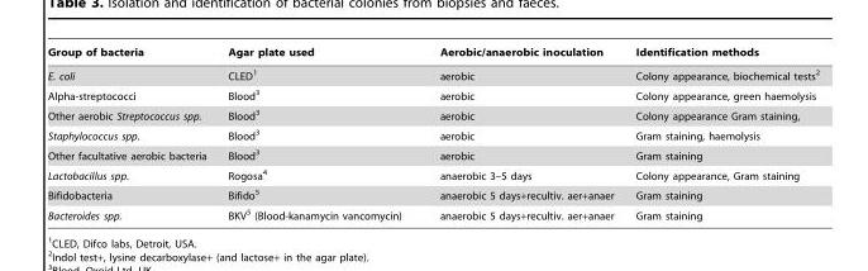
<table><thead><tr><td>Group of bacteria</td><td>Agar plate used</td><td>Aerobic/anaerobic inoculation</td><td>Identification methods</td></tr></thead><tbody><tr><td>E. coli</td><td>CLED<sup>1</sup></td><td>aerobic</td><td>Colony appearance, biochemical tests<sup>2</sup></td></tr><tr><td>Alpha-streptococci</td><td>Blood<sup>3</sup></td><td>aerobic</td><td>Colony appearance, green haemolysis</td></tr><tr><td>Other aerobic Streptococcus spp.</td><td>Blood<sup>3</sup></td><td>aerobic</td><td>Colony appearance Gram staining,</td></tr><tr><td>Staphylococcus spp.</td><td>Blood<sup>3</sup></td><td>aerobic</td><td>Gram staining, haemolysis</td></tr><tr><td>Other facultative aerobic bacteria</td><td>Blood<sup>3</sup></td><td>aerobic</td><td>Gram staining</td></tr><tr><td>Lactobacillus spp.</td><td>Rogosa<sup>4</sup></td><td>anaerobic 3–5 days</td><td>Colony appearance, Gram staining</td></tr><tr><td>Bifidobacteria</td><td>Bifido<sup>5</sup></td><td>anaerobic 5 days+recultiv. aer+anaer</td><td>Gram staining</td></tr><tr><td>Bacteroides spp.</td><td>BKV<sup>5</sup> (Blood-kanamycin vancomycin)</td><td>anaerobic 5 days+recultiv. aer+anaer</td><td>Gram staining</td></tr></tbody></table>